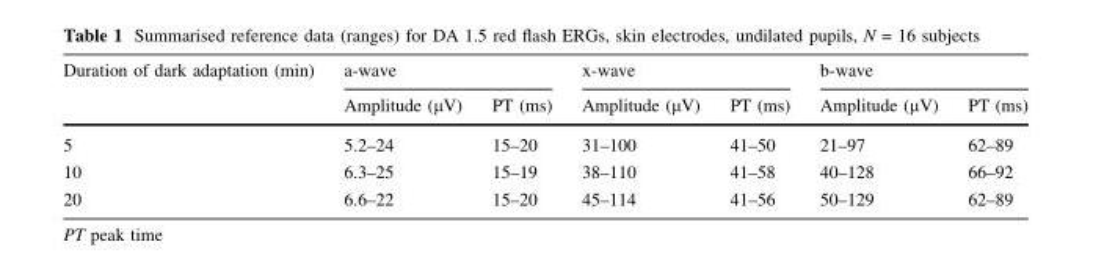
<table><thead><tr><td rowspan="2">Duration of dark adaptation (min)</td><td colspan="2">a-wave</td><td colspan="2">x-wave</td><td colspan="2">b-wave</td></tr><tr><td>Amplitude (µV)</td><td>PT (ms)</td><td>Amplitude (µV)</td><td>PT (ms)</td><td>Amplitude (µV)</td><td>PT (ms)</td></tr></thead><tbody><tr><td>5</td><td>5.2–24</td><td>15–20</td><td>31–100</td><td>41–50</td><td>21–97</td><td>62–89</td></tr><tr><td>10</td><td>6.3–25</td><td>15–19</td><td>38–110</td><td>41–58</td><td>40–128</td><td>66–92</td></tr><tr><td>20</td><td>6.6–22</td><td>15–20</td><td>45–114</td><td>41–56</td><td>50–129</td><td>62–89</td></tr></tbody></table>